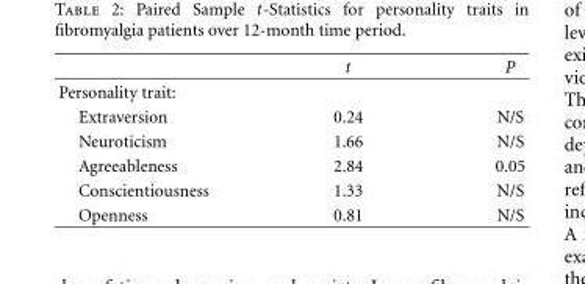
<table><thead><tr><td></td><td>t</td><td>P</td></tr></thead><tbody><tr><td colspan="3">Personality trait:</td></tr><tr><td>Extraversion</td><td>0.24</td><td>N/S</td></tr><tr><td>Neuroticism</td><td>1.66</td><td>N/S</td></tr><tr><td>Agreeableness</td><td>2.84</td><td>0.05</td></tr><tr><td>Conscientiousness</td><td>1.33</td><td>N/S</td></tr><tr><td>Openness</td><td>0.81</td><td>N/S</td></tr></tbody></table>